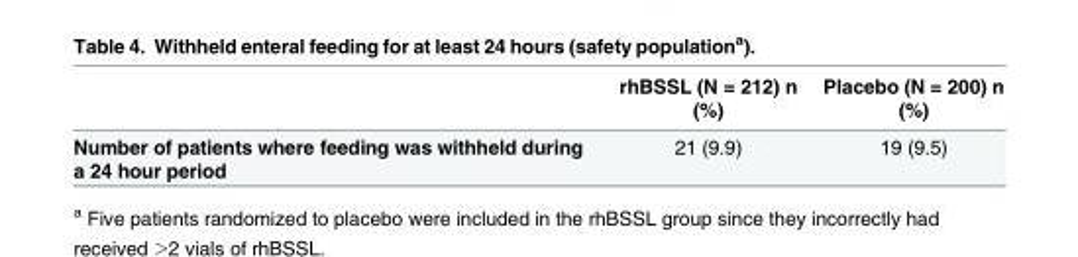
<table><thead><tr><td></td><td>rhBSSL (N = 212) n (%)</td><td>Placebo (N = 200) n (%)</td></tr></thead><tbody><tr><td>Number of patients where feeding was withheld during a 24 hour period</td><td>21 (9.9)</td><td>19 (9.5)</td></tr></tbody></table>